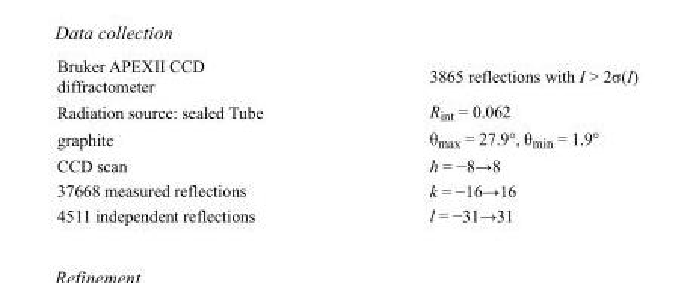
<table><tbody><tr><td>Bruker APEXII CCD diffractometer</td><td>3865 reflections with I &gt; 2σ(I)</td></tr><tr><td>Radiation source: sealed Tube</td><td>R<sub>int</sub> = 0.062</td></tr><tr><td>graphite</td><td>θ<sub>max</sub> = 27.9°, θ<sub>min</sub> = 1.9°</td></tr><tr><td>CCD scan</td><td>h = −8→8</td></tr><tr><td>37668 measured reflections</td><td>k = −16→16</td></tr><tr><td>4511 independent reflections</td><td>l = −31→31</td></tr></tbody></table>